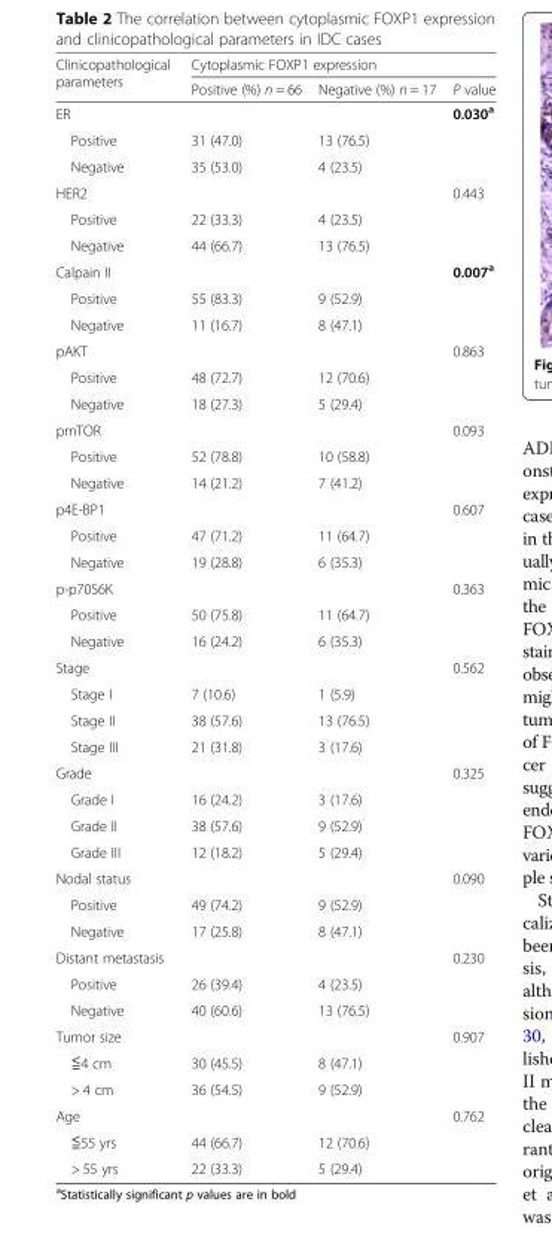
<table><thead><tr><td rowspan="2">Clinicopathological parameters</td><td colspan="3">Cytoplasmic FOXP1 expression</td></tr><tr><td>Positive (%) n = 66</td><td>Negative (%) n = 17</td><td>P value</td></tr></thead><tbody><tr><td>ER</td><td></td><td></td><td>0.030<sup>a</sup></td></tr><tr><td>Positive</td><td>31 (47.0)</td><td>13 (76.5)</td><td></td></tr><tr><td>Negative</td><td>35 (53.0)</td><td>4 (23.5)</td><td></td></tr><tr><td>HER2</td><td></td><td></td><td>0.443</td></tr><tr><td>Positive</td><td>22 (33.3)</td><td>4 (23.5)</td><td></td></tr><tr><td>Negative</td><td>44 (66.7)</td><td>13 (76.5)</td><td></td></tr><tr><td>Calpain II</td><td></td><td></td><td>0.007<sup>a</sup></td></tr><tr><td>Positive</td><td>55 (83.3)</td><td>9 (52.9)</td><td></td></tr><tr><td>Negative</td><td>11 (16.7)</td><td>8 (47.1)</td><td></td></tr><tr><td>pAKT</td><td></td><td></td><td>0.863</td></tr><tr><td>Positive</td><td>48 (72.7)</td><td>12 (70.6)</td><td></td></tr><tr><td>Negative</td><td>18 (27.3)</td><td>5 (29.4)</td><td></td></tr><tr><td>pmTOR</td><td></td><td></td><td>0.093</td></tr><tr><td>Positive</td><td>52 (78.8)</td><td>10 (58.8)</td><td></td></tr><tr><td>Negative</td><td>14 (21.2)</td><td>7 (41.2)</td><td></td></tr><tr><td>p4E-BP1</td><td></td><td></td><td>0.607</td></tr><tr><td>Positive</td><td>47 (71.2)</td><td>11 (64.7)</td><td></td></tr><tr><td>Negative</td><td>19 (28.8)</td><td>6 (35.3)</td><td></td></tr><tr><td>p-p70S6K</td><td></td><td></td><td>0.363</td></tr><tr><td>Positive</td><td>50 (75.8)</td><td>11 (64.7)</td><td></td></tr><tr><td>Negative</td><td>16 (24.2)</td><td>6 (35.3)</td><td></td></tr><tr><td>Stage</td><td></td><td></td><td>0.562</td></tr><tr><td>Stage I</td><td>7 (10.6)</td><td>1 (5.9)</td><td></td></tr><tr><td>Stage II</td><td>38 (57.6)</td><td>13 (76.5)</td><td></td></tr><tr><td>Stage III</td><td>21 (31.8)</td><td>3 (17.6)</td><td></td></tr><tr><td>Grade</td><td></td><td></td><td>0.325</td></tr><tr><td>Grade I</td><td>16 (24.2)</td><td>3 (17.6)</td><td></td></tr><tr><td>Grade II</td><td>38 (57.6)</td><td>9 (52.9)</td><td></td></tr><tr><td>Grade III</td><td>12 (18.2)</td><td>5 (29.4)</td><td></td></tr><tr><td>Nodal status</td><td></td><td></td><td>0.090</td></tr><tr><td>Positive</td><td>49 (74.2)</td><td>9 (52.9)</td><td></td></tr><tr><td>Negative</td><td>17 (25.8)</td><td>8 (47.1)</td><td></td></tr><tr><td>Distant metastasis</td><td></td><td></td><td>0.230</td></tr><tr><td>Positive</td><td>26 (39.4)</td><td>4 (23.5)</td><td></td></tr><tr><td>Negative</td><td>40 (60.6)</td><td>13 (76.5)</td><td></td></tr><tr><td>Tumor size</td><td></td><td></td><td>0.907</td></tr><tr><td>≦4 cm</td><td>30 (45.5)</td><td>8 (47.1)</td><td></td></tr><tr><td>&gt; 4 cm</td><td>36 (54.5)</td><td>9 (52.9)</td><td></td></tr><tr><td>Age</td><td></td><td></td><td>0.762</td></tr><tr><td>≦55 yrs</td><td>44 (66.7)</td><td>12 (70.6)</td><td></td></tr><tr><td>&gt; 55 yrs</td><td>22 (33.3)</td><td>5 (29.4)</td><td></td></tr></tbody></table>